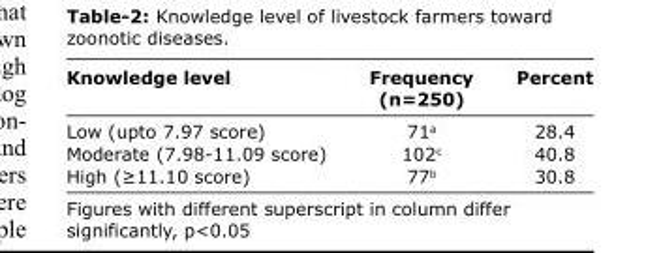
<table><thead><tr><td>Knowledge level</td><td>Frequency (n=250)</td><td>Percent</td></tr></thead><tbody><tr><td>Low (upto 7.97 score)</td><td>71<sup>a</sup></td><td>28.4</td></tr><tr><td>Moderate (7.98-11.09 score)</td><td>102<sup>c</sup></td><td>40.8</td></tr><tr><td>High (≥11.10 score)</td><td>77<sup>b</sup></td><td>30.8</td></tr></tbody></table>